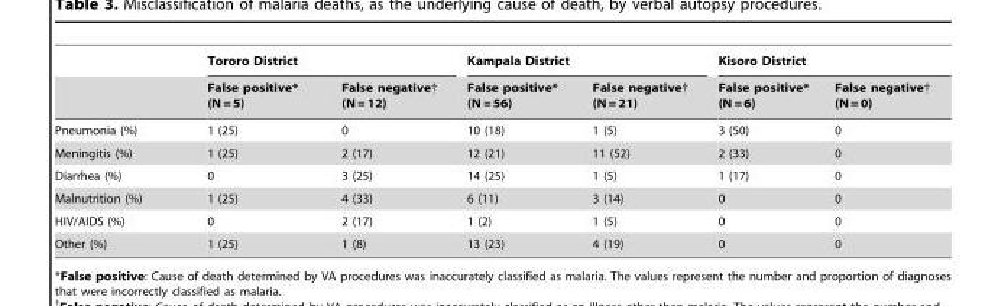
<table><thead><tr><td rowspan="2"></td><td colspan="2">Tororo District</td><td colspan="2">Kampala District</td><td colspan="2">Kisoro District</td></tr><tr><td>False positive* (N = 5)</td><td>False negative† (N = 12)</td><td>False positive* (N = 56)</td><td>False negative† (N = 21)</td><td>False positive* (N = 6)</td><td>False negative† (N = 0)</td></tr></thead><tbody><tr><td>Pneumonia (%)</td><td>1 (25)</td><td>0</td><td>10 (18)</td><td>1 (5)</td><td>3 (50)</td><td>0</td></tr><tr><td>Meningitis (%)</td><td>1 (25)</td><td>2 (17)</td><td>12 (21)</td><td>11 (52)</td><td>2 (33)</td><td>0</td></tr><tr><td>Diarrhea (%)</td><td>0</td><td>3 (25)</td><td>14 (25)</td><td>1 (5)</td><td>1 (17)</td><td>0</td></tr><tr><td>Malnutrition (%)</td><td>1 (25)</td><td>4 (33)</td><td>6 (11)</td><td>3 (14)</td><td>0</td><td>0</td></tr><tr><td>HIV/AIDS (%)</td><td>0</td><td>2 (17)</td><td>1 (2)</td><td>1 (5)</td><td>0</td><td>0</td></tr><tr><td>Other (%)</td><td>1 (25)</td><td>1 (8)</td><td>13 (23)</td><td>4 (19)</td><td>0</td><td>0</td></tr></tbody></table>